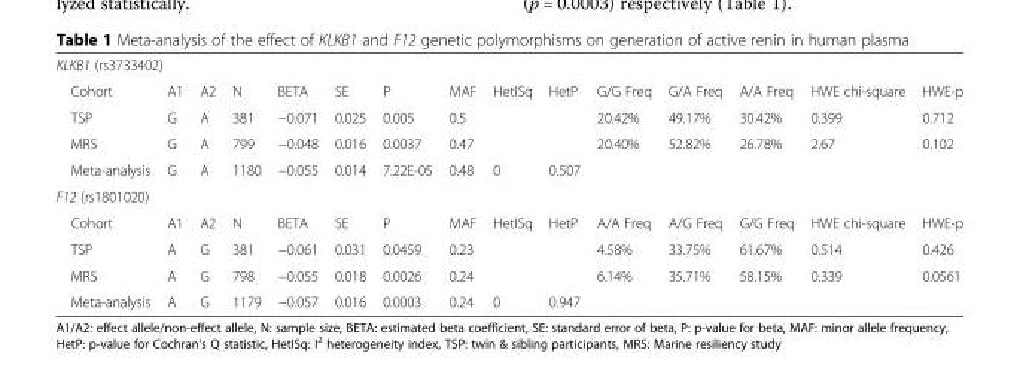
<table><tbody><tr><td colspan="15">KLKB1 (rs3733402)</td></tr><tr><td>Cohort</td><td>A1</td><td>A2</td><td>N</td><td>BETA</td><td>SE</td><td>P</td><td>MAF</td><td>HetISq</td><td>HetP</td><td>G/G Freq</td><td>G/A Freq</td><td>A/A Freq</td><td>HWE chi-square</td><td>HWE-p</td></tr><tr><td>TSP</td><td>G</td><td>A</td><td>381</td><td>−0.071</td><td>0.025</td><td>0.005</td><td>0.5</td><td></td><td></td><td>20.42%</td><td>49.17%</td><td>30.42%</td><td>0.399</td><td>0.712</td></tr><tr><td>MRS</td><td>G</td><td>A</td><td>799</td><td>−0.048</td><td>0.016</td><td>0.0037</td><td>0.47</td><td></td><td></td><td>20.40%</td><td>52.82%</td><td>26.78%</td><td>2.67</td><td>0.102</td></tr><tr><td>Meta-analysis</td><td>G</td><td>A</td><td>1180</td><td>−0.055</td><td>0.014</td><td>7.22E-05</td><td>0.48</td><td>0</td><td>0.507</td><td></td><td></td><td></td><td></td><td></td></tr><tr><td colspan="15">F12 (rs1801020)</td></tr><tr><td>Cohort</td><td>A1</td><td>A2</td><td>N</td><td>BETA</td><td>SE</td><td>P</td><td>MAF</td><td>HetISq</td><td>HetP</td><td>A/A Freq</td><td>A/G Freq</td><td>G/G Freq</td><td>HWE chi-square</td><td>HWE-p</td></tr><tr><td>TSP</td><td>A</td><td>G</td><td>381</td><td>−0.061</td><td>0.031</td><td>0.0459</td><td>0.23</td><td></td><td></td><td>4.58%</td><td>33.75%</td><td>61.67%</td><td>0.514</td><td>0.426</td></tr><tr><td>MRS</td><td>A</td><td>G</td><td>798</td><td>−0.055</td><td>0.018</td><td>0.0026</td><td>0.24</td><td></td><td></td><td>6.14%</td><td>35.71%</td><td>58.15%</td><td>0.339</td><td>0.0561</td></tr><tr><td>Meta-analysis</td><td>A</td><td>G</td><td>1179</td><td>−0.057</td><td>0.016</td><td>0.0003</td><td>0.24</td><td>0</td><td>0.947</td><td></td><td></td><td></td><td></td><td></td></tr></tbody></table>